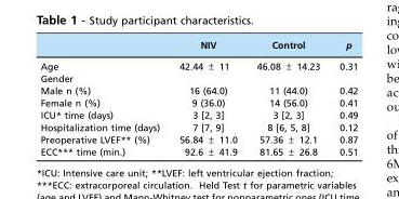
<table><thead><tr><td></td><td>NIV</td><td>Control</td><td>p</td></tr></thead><tbody><tr><td>Age</td><td>42.44 ± 11</td><td>46.08 ± 14.23</td><td>0.31</td></tr><tr><td colspan="4">Gender</td></tr><tr><td>Male n (%)</td><td>16 (64.0)</td><td>11 (44.0)</td><td>0.42</td></tr><tr><td>Female n (%)</td><td>9 (36.0)</td><td>14 (56.0)</td><td>0.41</td></tr><tr><td>ICU* time (days)</td><td>3 [2, 3]</td><td>3 [2, 3]</td><td>0.49</td></tr><tr><td>Hospitalization time (days)</td><td>7 [7, 9]</td><td>8 [6, 5, 8]</td><td>0.12</td></tr><tr><td>Preoperative LVEF** (%)</td><td>56.84 ± 11.0</td><td>57.36 ± 12.1</td><td>0.87</td></tr><tr><td>ECC*** time (min.)</td><td>92.6 ± 41.9</td><td>81.65 ± 26.8</td><td>0.51</td></tr></tbody></table>